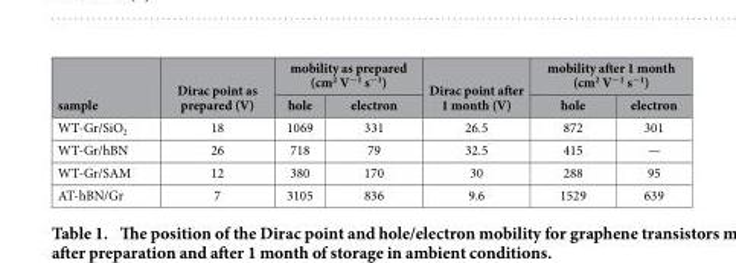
<table><thead><tr><td rowspan="2">sample</td><td rowspan="2">Dirac point as prepared (V)</td><td colspan="2">mobility as prepared (cm<sup>2</sup> V<sup>−1</sup> s<sup>−1</sup>)</td><td rowspan="2">Dirac point after 1 month (V)</td><td colspan="2">mobility after 1 month (cm<sup>2</sup> V<sup>−1</sup> s<sup>−1</sup>)</td></tr><tr><td>hole</td><td>electron</td><td>hole</td><td>electron</td></tr></thead><tbody><tr><td>WT-Gr/SiO<sub>2</sub></td><td>18</td><td>1069</td><td>331</td><td>26.5</td><td>872</td><td>301</td></tr><tr><td>WT-Gr/hBN</td><td>26</td><td>718</td><td>79</td><td>32.5</td><td>415</td><td>—</td></tr><tr><td>WT-Gr/SAM</td><td>12</td><td>380</td><td>170</td><td>30</td><td>288</td><td>95</td></tr><tr><td>AT-hBN/Gr</td><td>7</td><td>3105</td><td>836</td><td>9.6</td><td>1529</td><td>639</td></tr></tbody></table>